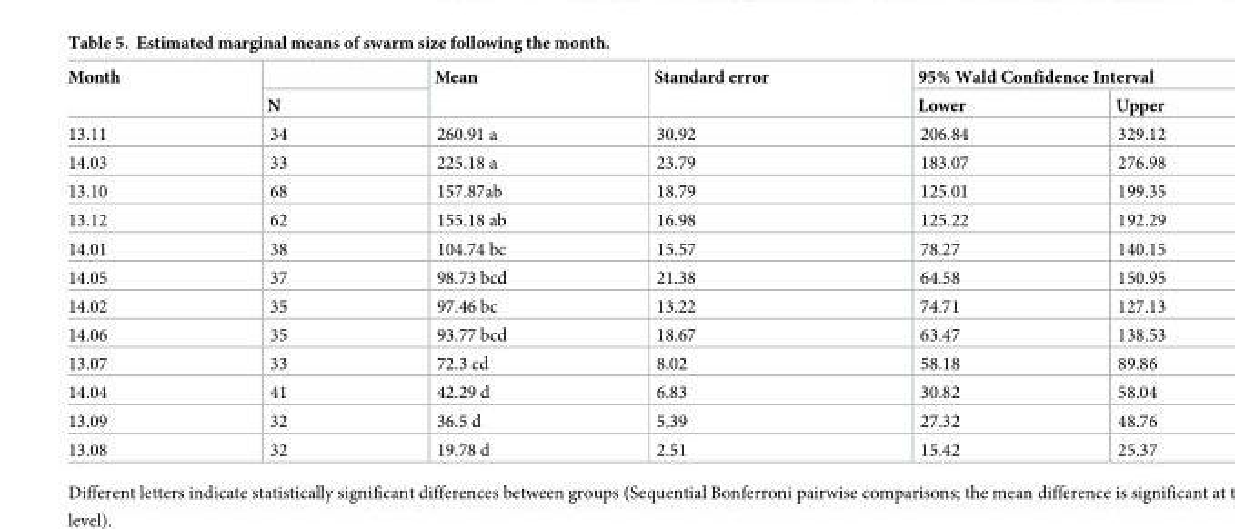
<table><thead><tr><td rowspan="2">Month</td><td rowspan="2">N</td><td rowspan="2">Mean</td><td rowspan="2">Standard error</td><td colspan="2">95% Wald Confidence Interval</td></tr><tr><td>Lower</td><td>Upper</td></tr></thead><tbody><tr><td>13.11</td><td>34</td><td>260.91 a</td><td>30.92</td><td>206.84</td><td>329.12</td></tr><tr><td>14.03</td><td>33</td><td>225.18 a</td><td>23.79</td><td>183.07</td><td>276.98</td></tr><tr><td>13.10</td><td>68</td><td>157.87ab</td><td>18.79</td><td>125.01</td><td>199.35</td></tr><tr><td>13.12</td><td>62</td><td>155.18 ab</td><td>16.98</td><td>125.22</td><td>192.29</td></tr><tr><td>14.01</td><td>38</td><td>104.74 bc</td><td>15.57</td><td>78.27</td><td>140.15</td></tr><tr><td>14.05</td><td>37</td><td>98.73 bcd</td><td>21.38</td><td>64.58</td><td>150.95</td></tr><tr><td>14.02</td><td>35</td><td>97.46 bc</td><td>13.22</td><td>74.71</td><td>127.13</td></tr><tr><td>14.06</td><td>35</td><td>93.77 bcd</td><td>18.67</td><td>63.47</td><td>138.53</td></tr><tr><td>13.07</td><td>33</td><td>72.3 cd</td><td>8.02</td><td>58.18</td><td>89.86</td></tr><tr><td>14.04</td><td>41</td><td>42.29 d</td><td>6.83</td><td>30.82</td><td>58.04</td></tr><tr><td>13.09</td><td>32</td><td>36.5 d</td><td>5.39</td><td>27.32</td><td>48.76</td></tr><tr><td>13.08</td><td>32</td><td>19.78 d</td><td>2.51</td><td>15.42</td><td>25.37</td></tr></tbody></table>